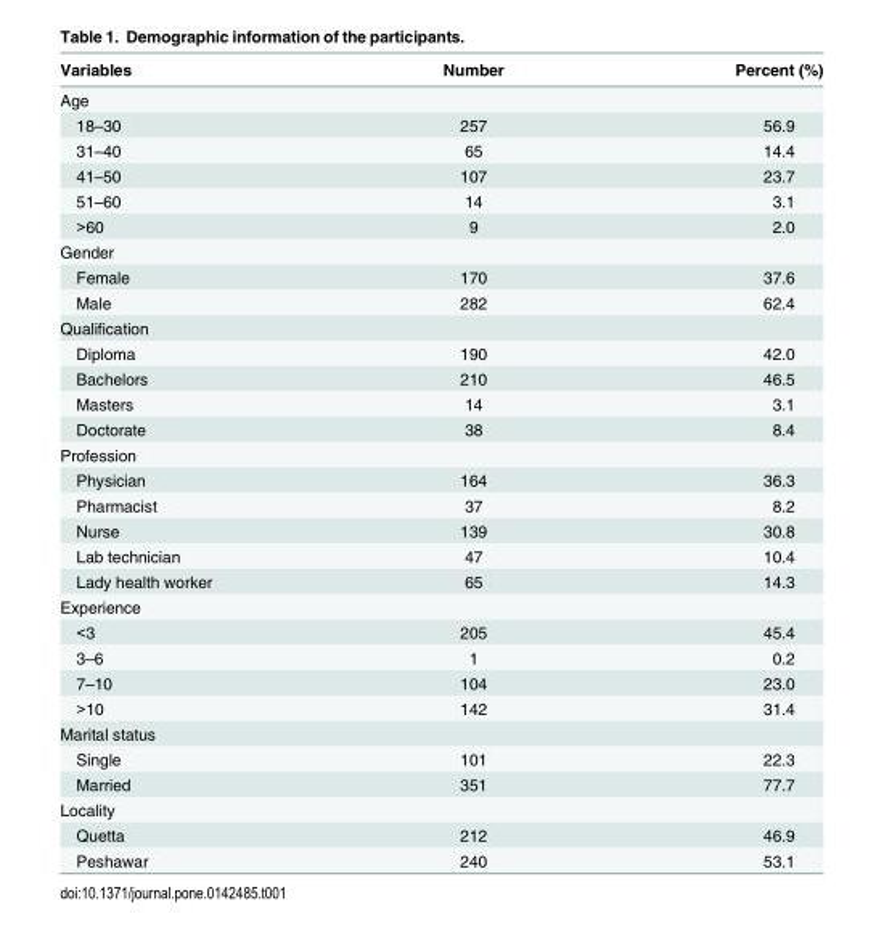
<table><thead><tr><td>Variables</td><td>Number</td><td>Percent (%)</td></tr></thead><tbody><tr><td colspan="3">Age</td></tr><tr><td>18–30</td><td>257</td><td>56.9</td></tr><tr><td>31–40</td><td>65</td><td>14.4</td></tr><tr><td>41–50</td><td>107</td><td>23.7</td></tr><tr><td>51–60</td><td>14</td><td>3.1</td></tr><tr><td>&gt;60</td><td>9</td><td>2.0</td></tr><tr><td colspan="3">Gender</td></tr><tr><td>Female</td><td>170</td><td>37.6</td></tr><tr><td>Male</td><td>282</td><td>62.4</td></tr><tr><td colspan="3">Qualification</td></tr><tr><td>Diploma</td><td>190</td><td>42.0</td></tr><tr><td>Bachelors</td><td>210</td><td>46.5</td></tr><tr><td>Masters</td><td>14</td><td>3.1</td></tr><tr><td>Doctorate</td><td>38</td><td>8.4</td></tr><tr><td colspan="3">Profession</td></tr><tr><td>Physician</td><td>164</td><td>36.3</td></tr><tr><td>Pharmacist</td><td>37</td><td>8.2</td></tr><tr><td>Nurse</td><td>139</td><td>30.8</td></tr><tr><td>Lab technician</td><td>47</td><td>10.4</td></tr><tr><td>Lady health worker</td><td>65</td><td>14.3</td></tr><tr><td colspan="3">Experience</td></tr><tr><td>&lt;3</td><td>205</td><td>45.4</td></tr><tr><td>3–6</td><td>1</td><td>0.2</td></tr><tr><td>7–10</td><td>104</td><td>23.0</td></tr><tr><td>&gt;10</td><td>142</td><td>31.4</td></tr><tr><td colspan="3">Marital status</td></tr><tr><td>Single</td><td>101</td><td>22.3</td></tr><tr><td>Married</td><td>351</td><td>77.7</td></tr><tr><td colspan="3">Locality</td></tr><tr><td>Quetta</td><td>212</td><td>46.9</td></tr><tr><td>Peshawar</td><td>240</td><td>53.1</td></tr></tbody></table>